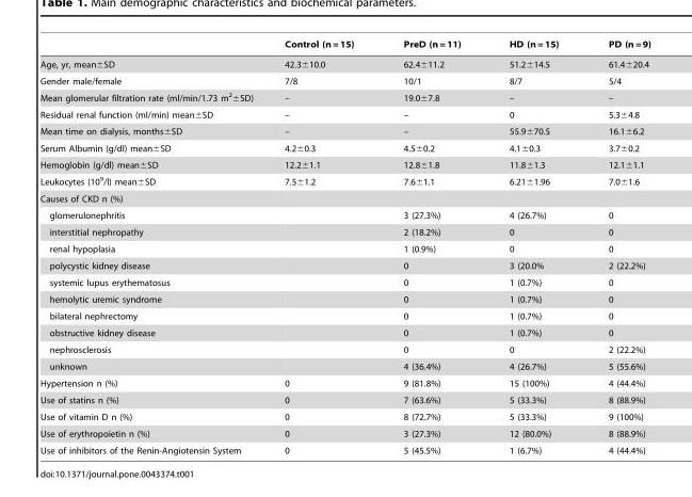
<table><thead><tr><td></td><td>Control (n = 15)</td><td>PreD (n = 11)</td><td>HD (n = 15)</td><td>PD (n = 9)</td></tr></thead><tbody><tr><td>Age, yr, mean±SD</td><td>42.3±10.0</td><td>62.4±11.2</td><td>51.2±14.5</td><td>61.4±20.4</td></tr><tr><td>Gender male/female</td><td>7/8</td><td>10/1</td><td>8/7</td><td>5/4</td></tr><tr><td>Mean glomerular filtration rate (ml/min/1.73 m<sup>2</sup>±SD)</td><td>–</td><td>19.0±7.8</td><td>–</td><td>–</td></tr><tr><td>Residual renal function (ml/min) mean±SD</td><td>–</td><td>–</td><td>0</td><td>5.3±4.8</td></tr><tr><td>Mean time on dialysis, months±SD</td><td>–</td><td>–</td><td>55.9±70.5</td><td>16.1±6.2</td></tr><tr><td>Serum Albumin (g/dl) mean±SD</td><td>4.2±0.3</td><td>4.5±0.2</td><td>4.1±0.3</td><td>3.7±0.2</td></tr><tr><td>Hemoglobin (g/dl) mean±SD</td><td>12.2±1.1</td><td>12.8±1.8</td><td>11.8±1.3</td><td>12.1±1.1</td></tr><tr><td>Leukocytes (10<sup>9</sup>/l) mean±SD</td><td>7.5±1.2</td><td>7.6±1.1</td><td>6.21±1.96</td><td>7.0±1.6</td></tr><tr><td colspan="5">Causes of CKD n (%)</td></tr><tr><td>glomerulonephritis</td><td></td><td>3 (27.3%)</td><td>4 (26.7%)</td><td>0</td></tr><tr><td>interstitial nephropathy</td><td></td><td>2 (18.2%)</td><td>0</td><td>0</td></tr><tr><td>renal hypoplasia</td><td></td><td>1 (0.9%)</td><td>0</td><td>0</td></tr><tr><td>polycystic kidney disease</td><td></td><td>0</td><td>3 (20.0%</td><td>2 (22.2%)</td></tr><tr><td>systemic lupus erythematosus</td><td></td><td>0</td><td>1 (0.7%)</td><td>0</td></tr><tr><td>hemolytic uremic syndrome</td><td></td><td>0</td><td>1 (0.7%)</td><td>0</td></tr><tr><td>bilateral nephrectomy</td><td></td><td>0</td><td>1 (0.7%)</td><td>0</td></tr><tr><td>obstructive kidney disease</td><td></td><td>0</td><td>1 (0.7%)</td><td>0</td></tr><tr><td>nephrosclerosis</td><td></td><td>0</td><td>0</td><td>2 (22.2%)</td></tr><tr><td>unknown</td><td></td><td>4 (36.4%)</td><td>4 (26.7%)</td><td>5 (55.6%)</td></tr><tr><td>Hypertension n (%)</td><td>0</td><td>9 (81.8%)</td><td>15 (100%)</td><td>4 (44.4%)</td></tr><tr><td>Use of statins n (%)</td><td>0</td><td>7 (63.6%)</td><td>5 (33.3%)</td><td>8 (88.9%)</td></tr><tr><td>Use of vitamin D n (%)</td><td>0</td><td>8 (72.7%)</td><td>5 (33.3%)</td><td>9 (100%)</td></tr><tr><td>Use of erythropoietin n (%)</td><td>0</td><td>3 (27.3%)</td><td>12 (80.0%)</td><td>8 (88.9%)</td></tr><tr><td>Use of inhibitors of the Renin-Angiotensin System</td><td>0</td><td>5 (45.5%)</td><td>1 (6.7%)</td><td>4 (44.4%)</td></tr></tbody></table>